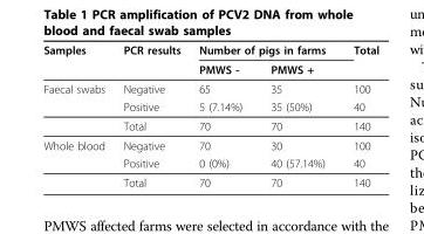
<table><thead><tr><td rowspan="2">Samples</td><td rowspan="2">PCR results</td><td colspan="2">Number of pigs in farms</td><td rowspan="2">Total</td></tr><tr><td>PMWS -</td><td>PMWS +</td></tr></thead><tbody><tr><td rowspan="3">Faecal swabs</td><td>Negative</td><td>65</td><td>35</td><td>100</td></tr><tr><td>Positive</td><td>5 (7.14%)</td><td>35 (50%)</td><td>40</td></tr><tr><td>Total</td><td>70</td><td>70</td><td>140</td></tr><tr><td rowspan="3">Whole blood</td><td>Negative</td><td>70</td><td>30</td><td>100</td></tr><tr><td>Positive</td><td>0 (0%)</td><td>40 (57.14%)</td><td>40</td></tr><tr><td>Total</td><td>70</td><td>70</td><td>140</td></tr></tbody></table>